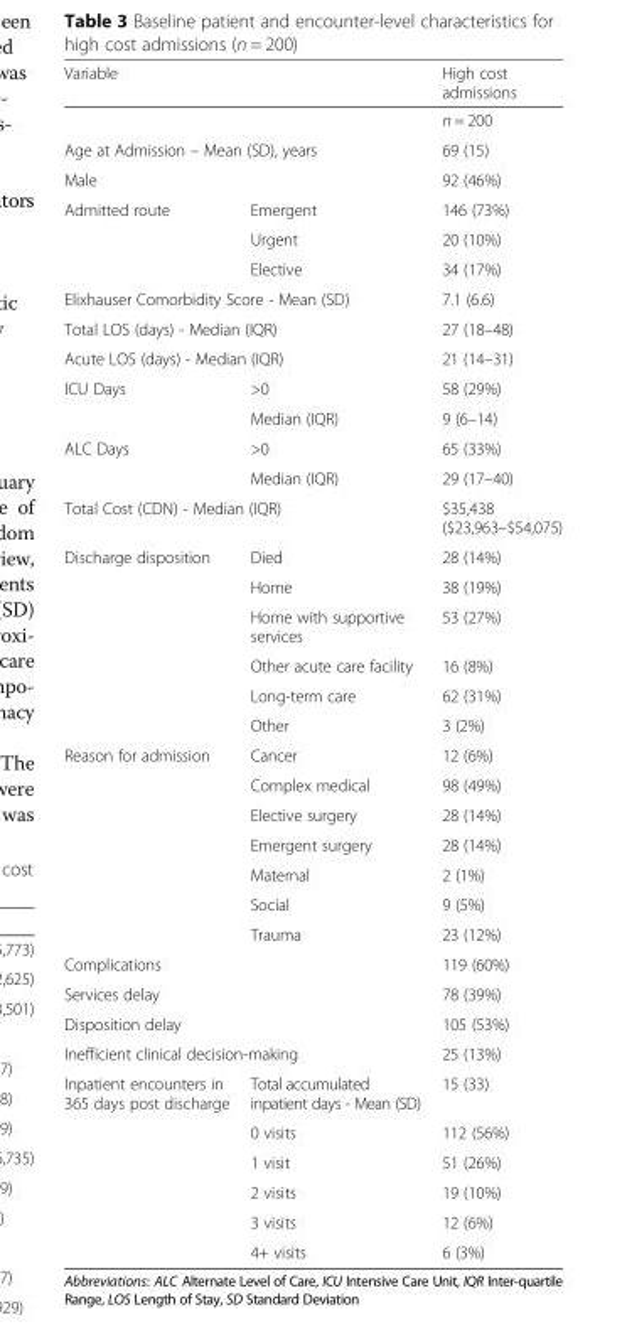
<table><thead><tr><td colspan="2">Variable</td><td>High cost admissions</td></tr></thead><tbody><tr><td colspan="2"></td><td>n = 200</td></tr><tr><td colspan="2">Age at Admission – Mean (SD), years</td><td>69 (15)</td></tr><tr><td colspan="2">Male</td><td>92 (46%)</td></tr><tr><td rowspan="3">Admitted route</td><td>Emergent</td><td>146 (73%)</td></tr><tr><td>Urgent</td><td>20 (10%)</td></tr><tr><td>Elective</td><td>34 (17%)</td></tr><tr><td colspan="2">Elixhauser Comorbidity Score - Mean (SD)</td><td>7.1 (6.6)</td></tr><tr><td colspan="2">Total LOS (days) - Median (IQR)</td><td>27 (18–48)</td></tr><tr><td colspan="2">Acute LOS (days) - Median (IQR)</td><td>21 (14–31)</td></tr><tr><td rowspan="2">ICU Days</td><td>&gt;0</td><td>58 (29%)</td></tr><tr><td>Median (IQR)</td><td>9 (6–14)</td></tr><tr><td rowspan="2">ALC Days</td><td>&gt;0</td><td>65 (33%)</td></tr><tr><td>Median (IQR)</td><td>29 (17–40)</td></tr><tr><td colspan="2">Total Cost (CDN) - Median (IQR)</td><td>$35,438 ($23,963–$54,075)</td></tr><tr><td rowspan="6">Discharge disposition</td><td>Died</td><td>28 (14%)</td></tr><tr><td>Home</td><td>38 (19%)</td></tr><tr><td>Home with supportive services</td><td>53 (27%)</td></tr><tr><td>Other acute care facility</td><td>16 (8%)</td></tr><tr><td>Long-term care</td><td>62 (31%)</td></tr><tr><td>Other</td><td>3 (2%)</td></tr><tr><td rowspan="7">Reason for admission</td><td>Cancer</td><td>12 (6%)</td></tr><tr><td>Complex medical</td><td>98 (49%)</td></tr><tr><td>Elective surgery</td><td>28 (14%)</td></tr><tr><td>Emergent surgery</td><td>28 (14%)</td></tr><tr><td>Maternal</td><td>2 (1%)</td></tr><tr><td>Social</td><td>9 (5%)</td></tr><tr><td>Trauma</td><td>23 (12%)</td></tr><tr><td colspan="2">Complications</td><td>119 (60%)</td></tr><tr><td colspan="2">Services delay</td><td>78 (39%)</td></tr><tr><td colspan="2">Disposition delay</td><td>105 (53%)</td></tr><tr><td colspan="2">Inefficient clinical decision-making</td><td>25 (13%)</td></tr><tr><td rowspan="6">Inpatient encounters in 365 days post discharge</td><td>Total accumulated inpatient days - Mean (SD)</td><td>15 (33)</td></tr><tr><td>0 visits</td><td>112 (56%)</td></tr><tr><td>1 visit</td><td>51 (26%)</td></tr><tr><td>2 visits</td><td>19 (10%)</td></tr><tr><td>3 visits</td><td>12 (6%)</td></tr><tr><td>4+ visits</td><td>6 (3%)</td></tr></tbody></table>